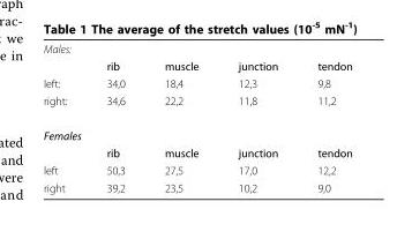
<table><tbody><tr><td colspan="5">Males:</td></tr><tr><td></td><td>rib</td><td>muscle</td><td>junction</td><td>tendon</td></tr><tr><td>left:</td><td>34,0</td><td>18,4</td><td>12,3</td><td>9,8</td></tr><tr><td>right:</td><td>34,6</td><td>22,2</td><td>11,8</td><td>11,2</td></tr><tr><td colspan="5">Females</td></tr><tr><td></td><td>rib</td><td>muscle</td><td>junction</td><td>tendon</td></tr><tr><td>left</td><td>50,3</td><td>27,5</td><td>17,0</td><td>12,2</td></tr><tr><td>right</td><td>39,2</td><td>23,5</td><td>10,2</td><td>9,0</td></tr></tbody></table>